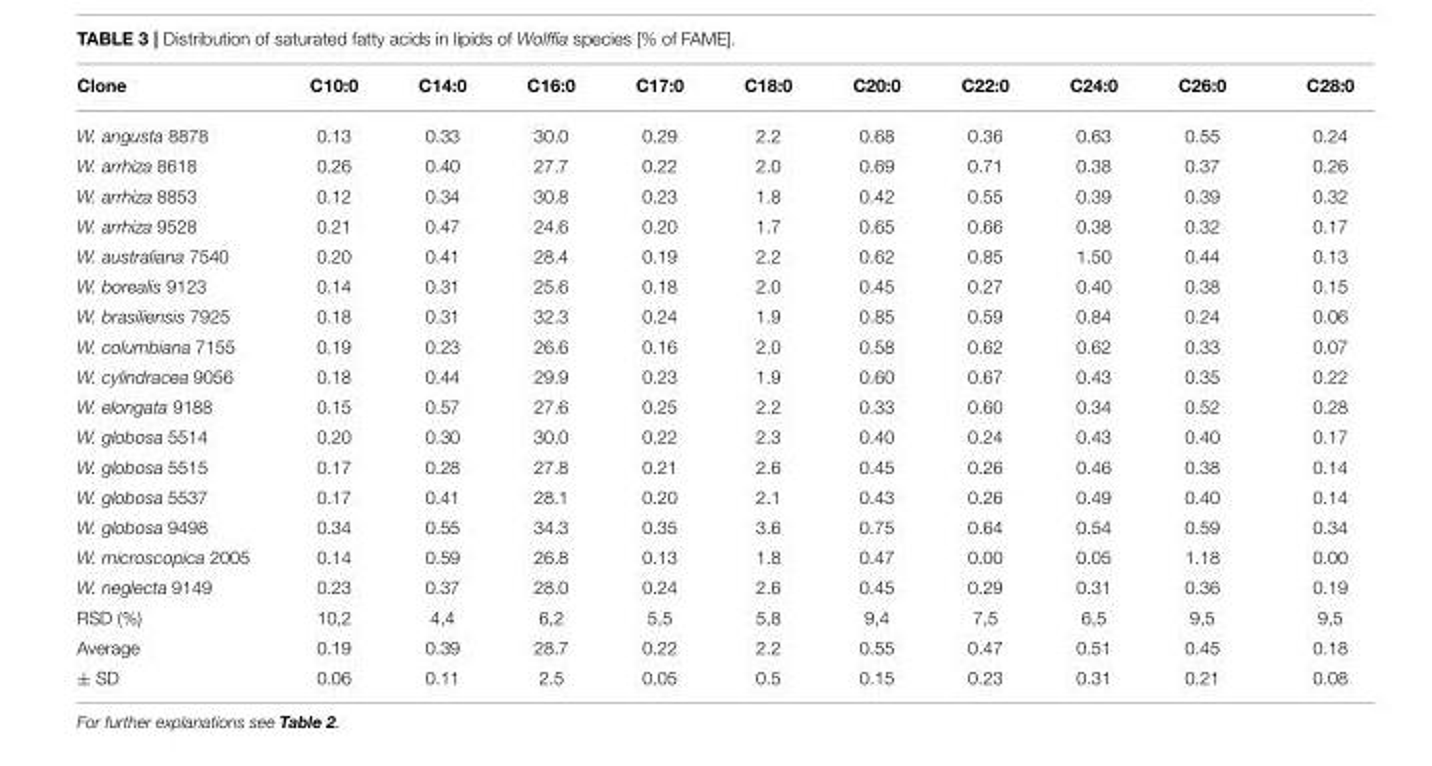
<table><thead><tr><td>Clone</td><td>C10:0</td><td>C14:0</td><td>C16:0</td><td>C17:0</td><td>C18:0</td><td>C20:0</td><td>C22:0</td><td>C24:0</td><td>C26:0</td><td>C28:0</td></tr></thead><tbody><tr><td>W. angusta 8878</td><td>0.13</td><td>0.33</td><td>30.0</td><td>0.29</td><td>2.2</td><td>0.68</td><td>0.36</td><td>0.63</td><td>0.55</td><td>0.24</td></tr><tr><td>W. arrhiza 8618</td><td>0.26</td><td>0.40</td><td>27.7</td><td>0.22</td><td>2.0</td><td>0.69</td><td>0.71</td><td>0.38</td><td>0.37</td><td>0.26</td></tr><tr><td>W. arrhiza 8853</td><td>0.12</td><td>0.34</td><td>30.8</td><td>0.23</td><td>1.8</td><td>0.42</td><td>0.55</td><td>0.39</td><td>0.39</td><td>0.32</td></tr><tr><td>W. arrhiza 9528</td><td>0.21</td><td>0.47</td><td>24.6</td><td>0.20</td><td>1.7</td><td>0.65</td><td>0.66</td><td>0.38</td><td>0.32</td><td>0.17</td></tr><tr><td>W. australiana 7540</td><td>0.20</td><td>0.41</td><td>28.4</td><td>0.19</td><td>2.2</td><td>0.62</td><td>0.85</td><td>1.50</td><td>0.44</td><td>0.13</td></tr><tr><td>W. borealis 9123</td><td>0.14</td><td>0.31</td><td>25.6</td><td>0.18</td><td>2.0</td><td>0.45</td><td>0.27</td><td>0.40</td><td>0.38</td><td>0.15</td></tr><tr><td>W. brasiliensis 7925</td><td>0.18</td><td>0.31</td><td>32.3</td><td>0.24</td><td>1.9</td><td>0.85</td><td>0.59</td><td>0.84</td><td>0.24</td><td>0.06</td></tr><tr><td>W. columbiana 7155</td><td>0.19</td><td>0.23</td><td>26.6</td><td>0.16</td><td>2.0</td><td>0.58</td><td>0.62</td><td>0.62</td><td>0.33</td><td>0.07</td></tr><tr><td>W. cylindracea 9056</td><td>0.18</td><td>0.44</td><td>29.9</td><td>0.23</td><td>1.9</td><td>0.60</td><td>0.67</td><td>0.43</td><td>0.35</td><td>0.22</td></tr><tr><td>W. elongata 9188</td><td>0.15</td><td>0.57</td><td>27.6</td><td>0.25</td><td>2.2</td><td>0.33</td><td>0.60</td><td>0.34</td><td>0.52</td><td>0.28</td></tr><tr><td>W. globosa 5514</td><td>0.20</td><td>0.30</td><td>30.0</td><td>0.22</td><td>2.3</td><td>0.40</td><td>0.24</td><td>0.43</td><td>0.40</td><td>0.17</td></tr><tr><td>W. globosa 5515</td><td>0.17</td><td>0.28</td><td>27.8</td><td>0.21</td><td>2.6</td><td>0.45</td><td>0.26</td><td>0.46</td><td>0.38</td><td>0.14</td></tr><tr><td>W. globosa 5537</td><td>0.17</td><td>0.41</td><td>28.1</td><td>0.20</td><td>2.1</td><td>0.43</td><td>0.26</td><td>0.49</td><td>0.40</td><td>0.14</td></tr><tr><td>W. globosa 9498</td><td>0.34</td><td>0.55</td><td>34.3</td><td>0.35</td><td>3.6</td><td>0.75</td><td>0.64</td><td>0.54</td><td>0.59</td><td>0.34</td></tr><tr><td>W. microscopica 2005</td><td>0.14</td><td>0.59</td><td>26.8</td><td>0.13</td><td>1.8</td><td>0.47</td><td>0.00</td><td>0.05</td><td>1.18</td><td>0.00</td></tr><tr><td>W. neglecta 9149</td><td>0.23</td><td>0.37</td><td>28.0</td><td>0.24</td><td>2.6</td><td>0.45</td><td>0.29</td><td>0.31</td><td>0.36</td><td>0.19</td></tr><tr><td>RSD (%)</td><td>10,2</td><td>4,4</td><td>6,2</td><td>5,5</td><td>5,8</td><td>9,4</td><td>7,5</td><td>6,5</td><td>9,5</td><td>9,5</td></tr><tr><td>Average</td><td>0.19</td><td>0.39</td><td>28.7</td><td>0.22</td><td>2.2</td><td>0.55</td><td>0.47</td><td>0.51</td><td>0.45</td><td>0.18</td></tr><tr><td>± SD</td><td>0.06</td><td>0.11</td><td>2.5</td><td>0.05</td><td>0.5</td><td>0.15</td><td>0.23</td><td>0.31</td><td>0.21</td><td>0.08</td></tr></tbody></table>